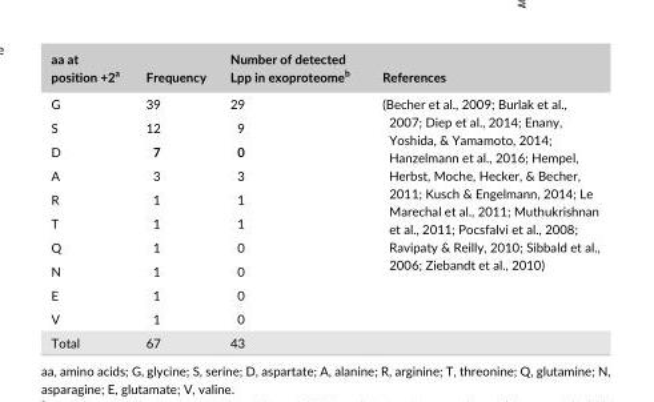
<table><thead><tr><td>aa at position +2<sup>a</sup></td><td>Frequency</td><td>Number of detected Lpp in exoproteome<sup>b</sup></td><td>References</td></tr></thead><tbody><tr><td>G</td><td>39</td><td>29</td><td rowspan="10">(Becher et al., 2009; Burlak et al., 2007; Diep et al., 2014; Enany, Yoshida, &amp; Yamamoto, 2014; Hanzelmann et al., 2016; Hempel, Herbst, Moche, Hecker, &amp; Becher, 2011; Kusch &amp; Engelmann, 2014; Le Marechal et al., 2011; Muthukrishnan et al., 2011; Pocsfalvi et al., 2008; Ravipaty &amp; Reilly, 2010; Sibbald et al., 2006; Ziebandt et al., 2010)</td></tr><tr><td>S</td><td>12</td><td>9</td></tr><tr><td>D</td><td>7</td><td>0</td></tr><tr><td>A</td><td>3</td><td>3</td></tr><tr><td>R</td><td>1</td><td>1</td></tr><tr><td>T</td><td>1</td><td>1</td></tr><tr><td>Q</td><td>1</td><td>0</td></tr><tr><td>N</td><td>1</td><td>0</td></tr><tr><td>E</td><td>1</td><td>0</td></tr><tr><td>V</td><td>1</td><td>0</td></tr><tr><td>Total</td><td>67</td><td>43</td><td></td></tr></tbody></table>